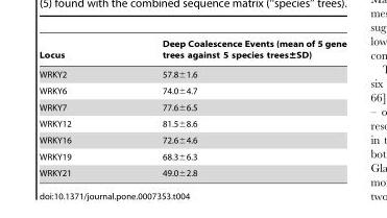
<table><thead><tr><td>Locus</td><td>Deep Coalescence Events (mean of 5 gene trees against 5 species trees±SD)</td></tr></thead><tbody><tr><td>WRKY2</td><td>57.8±1.6</td></tr><tr><td>WRKY6</td><td>74.0±4.7</td></tr><tr><td>WRKY7</td><td>77.6±6.5</td></tr><tr><td>WRKY12</td><td>81.5±8.6</td></tr><tr><td>WRKY16</td><td>72.6±4.6</td></tr><tr><td>WRKY19</td><td>68.3±6.3</td></tr><tr><td>WRKY21</td><td>49.0±2.8</td></tr></tbody></table>